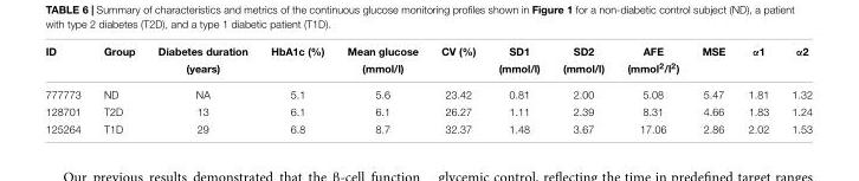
<table><thead><tr><td rowspan="2">ID</td><td rowspan="2">Group</td><td rowspan="2">Diabetes duration (years)</td><td rowspan="2">HbA1c (%)</td><td rowspan="2">Mean glucose (mmol/l)</td><td rowspan="2">CV (%)</td><td rowspan="2">SD1 (mmol/l)</td><td rowspan="2">SD2 (mmol/l)</td><td rowspan="2">AFE (mmol<sup>2</sup>/l<sup>2</sup>)</td><td rowspan="2">MSE</td><td rowspan="2">α1</td><td rowspan="2">α2</td></tr><tr></tr></thead><tbody><tr><td>777773</td><td>ND</td><td>NA</td><td>5.1</td><td>5.6</td><td>23.42</td><td>0.81</td><td>2.00</td><td>5.08</td><td>5.47</td><td>1.81</td><td>1.32</td></tr><tr><td>128701</td><td>T2D</td><td>13</td><td>6.1</td><td>6.1</td><td>26.27</td><td>1.11</td><td>2.39</td><td>8.31</td><td>4.66</td><td>1.83</td><td>1.24</td></tr><tr><td>125264</td><td>T1D</td><td>29</td><td>6.8</td><td>8.7</td><td>32.37</td><td>1.48</td><td>3.67</td><td>17.06</td><td>2.86</td><td>2.02</td><td>1.53</td></tr></tbody></table>